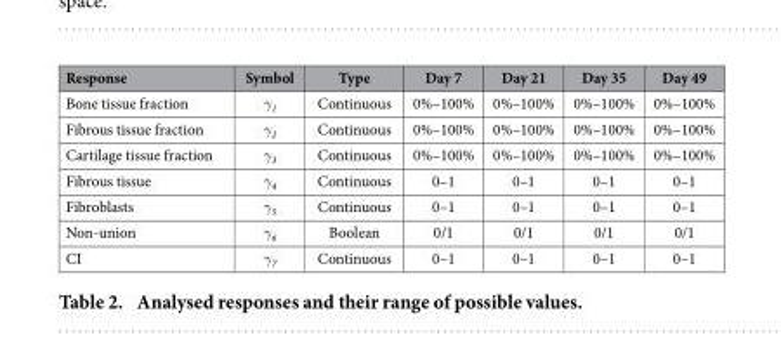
<table><thead><tr><td>Response</td><td>Symbol</td><td>Type</td><td>Day 7</td><td>Day 21</td><td>Day 35</td><td>Day 49</td></tr></thead><tbody><tr><td>Bone tissue fraction</td><td>γ<sub>1</sub></td><td>Continuous</td><td>0%–100%</td><td>0%–100%</td><td>0%–100%</td><td>0%–100%</td></tr><tr><td>Fibrous tissue fraction</td><td>γ<sub>2</sub></td><td>Continuous</td><td>0%–100%</td><td>0%–100%</td><td>0%–100%</td><td>0%–100%</td></tr><tr><td>Cartilage tissue fraction</td><td>γ<sub>3</sub></td><td>Continuous</td><td>0%–100%</td><td>0%–100%</td><td>0%–100%</td><td>0%–100%</td></tr><tr><td>Fibrous tissue</td><td>γ<sub>4</sub></td><td>Continuous</td><td>0–1</td><td>0–1</td><td>0–1</td><td>0–1</td></tr><tr><td>Fibroblasts</td><td>γ<sub>5</sub></td><td>Continuous</td><td>0–1</td><td>0–1</td><td>0–1</td><td>0–1</td></tr><tr><td>Non-union</td><td>γ<sub>6</sub></td><td>Boolean</td><td>0/1</td><td>0/1</td><td>0/1</td><td>0/1</td></tr><tr><td>CI</td><td>γ<sub>7</sub></td><td>Continuous</td><td>0–1</td><td>0–1</td><td>0–1</td><td>0–1</td></tr></tbody></table>